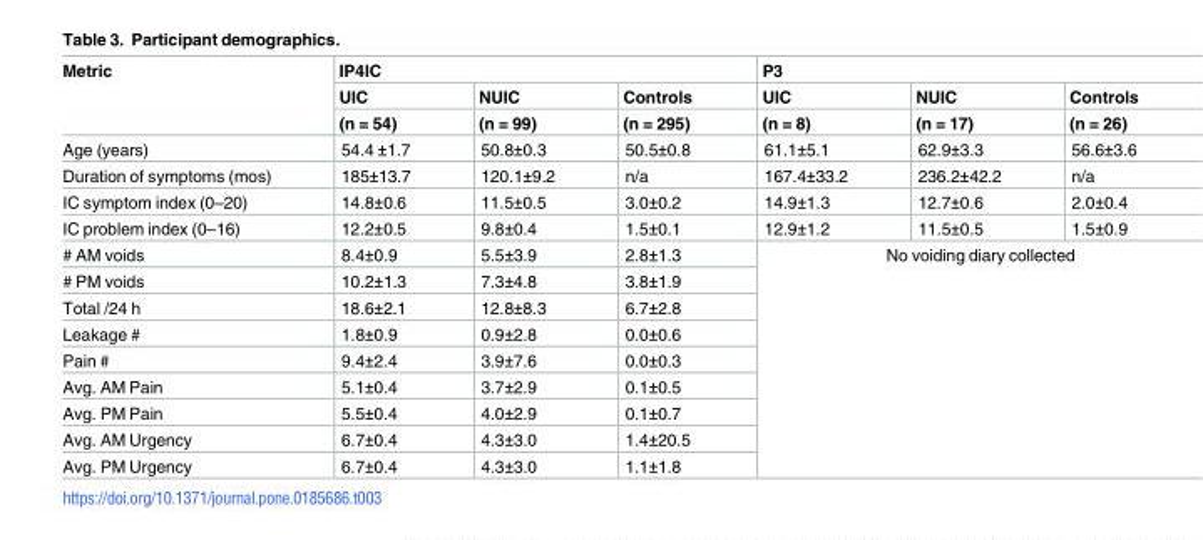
<table><thead><tr><td rowspan="3">Metric</td><td colspan="3">IP4IC</td><td colspan="3">P3</td></tr><tr><td rowspan="2">UIC (n = 54)</td><td rowspan="2">NUIC (n = 99)</td><td rowspan="2">Controls (n = 295)</td><td rowspan="2">UIC (n = 8)</td><td rowspan="2">NUIC (n = 17)</td><td rowspan="2">Controls (n = 26)</td></tr><tr></tr></thead><tbody><tr><td>Age (years)</td><td>54.4 ±1.7</td><td>50.8±0.3</td><td>50.5±0.8</td><td>61.1±5.1</td><td>62.9±3.3</td><td>56.6±3.6</td></tr><tr><td>Duration of symptoms (mos)</td><td>185±13.7</td><td>120.1±9.2</td><td>n/a</td><td>167.4±33.2</td><td>236.2±42.2</td><td>n/a</td></tr><tr><td>IC symptom index (0–20)</td><td>14.8±0.6</td><td>11.5±0.5</td><td>3.0±0.2</td><td>14.9±1.3</td><td>12.7±0.6</td><td>2.0±0.4</td></tr><tr><td>IC problem index (0–16)</td><td>12.2±0.5</td><td>9.8±0.4</td><td>1.5±0.1</td><td>12.9±1.2</td><td>11.5±0.5</td><td>1.5±0.9</td></tr><tr><td># AM voids</td><td>8.4±0.9</td><td>5.5±3.9</td><td>2.8±1.3</td><td rowspan="9" colspan="3">No voiding diary collected</td></tr><tr><td># PM voids</td><td>10.2±1.3</td><td>7.3±4.8</td><td>3.8±1.9</td></tr><tr><td>Total /24 h</td><td>18.6±2.1</td><td>12.8±8.3</td><td>6.7±2.8</td></tr><tr><td>Leakage #</td><td>1.8±0.9</td><td>0.9±2.8</td><td>0.0±0.6</td></tr><tr><td>Pain #</td><td>9.4±2.4</td><td>3.9±7.6</td><td>0.0±0.3</td></tr><tr><td>Avg. AM Pain</td><td>5.1±0.4</td><td>3.7±2.9</td><td>0.1±0.5</td></tr><tr><td>Avg. PM Pain</td><td>5.5±0.4</td><td>4.0±2.9</td><td>0.1±0.7</td></tr><tr><td>Avg. AM Urgency</td><td>6.7±0.4</td><td>4.3±3.0</td><td>1.4±20.5</td></tr><tr><td>Avg. PM Urgency</td><td>6.7±0.4</td><td>4.3±3.0</td><td>1.1±1.8</td></tr></tbody></table>